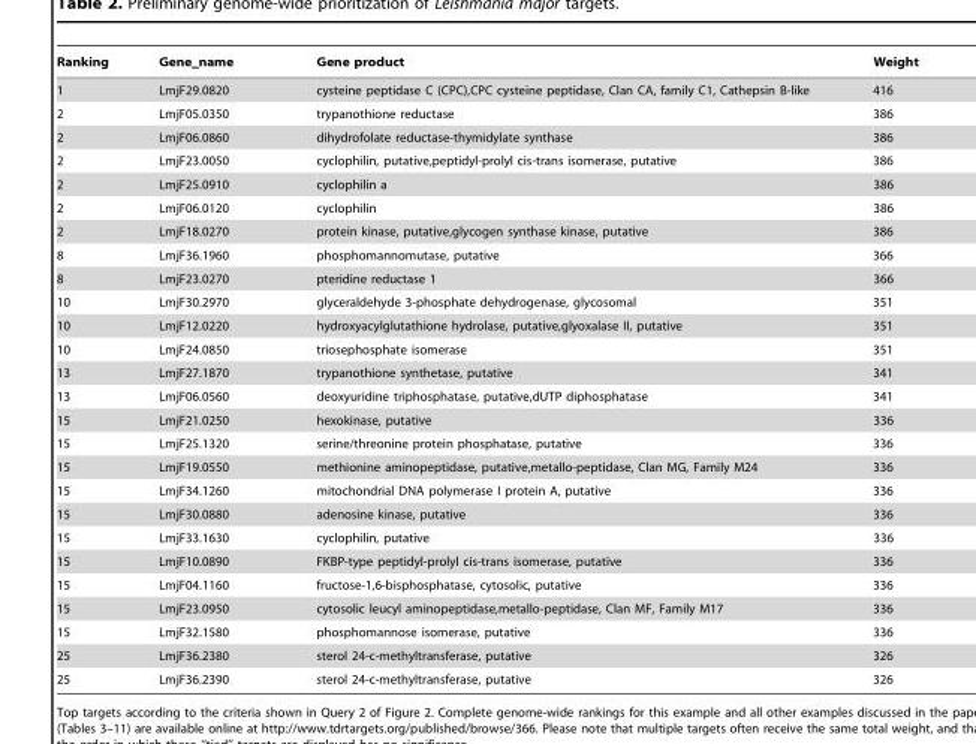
<table><thead><tr><td>Ranking</td><td>Gene__name</td><td>Gene product</td><td>Weight</td></tr></thead><tbody><tr><td>1</td><td>LmjF29.0820</td><td>cysteine peptidase C (CPC),CPC cysteine peptidase, Clan CA, family C1, Cathepsin B-like</td><td>416</td></tr><tr><td>2</td><td>LmjF05.0350</td><td>trypanothione reductase</td><td>386</td></tr><tr><td>2</td><td>LmjF06.0860</td><td>dihydrofolate reductase-thymidylate synthase</td><td>386</td></tr><tr><td>2</td><td>LmjF23.0050</td><td>cyclophilin, putative,peptidyl-prolyl cis-trans isomerase, putative</td><td>386</td></tr><tr><td>2</td><td>LmjF25.0910</td><td>cyclophilin a</td><td>386</td></tr><tr><td>2</td><td>LmjF06.0120</td><td>cyclophilin</td><td>386</td></tr><tr><td>2</td><td>LmjF18.0270</td><td>protein kinase, putative,glycogen synthase kinase, putative</td><td>386</td></tr><tr><td>8</td><td>LmjF36.1960</td><td>phosphomannomutase, putative</td><td>366</td></tr><tr><td>8</td><td>LmjF23.0270</td><td>pteridine reductase 1</td><td>366</td></tr><tr><td>10</td><td>LmjF30.2970</td><td>glyceraldehyde 3-phosphate dehydrogenase, glycosomal</td><td>351</td></tr><tr><td>10</td><td>LmjF12.0220</td><td>hydroxyacylglutathione hydrolase, putative,glyoxalase II, putative</td><td>351</td></tr><tr><td>10</td><td>LmjF24.0850</td><td>triosephosphate isomerase</td><td>351</td></tr><tr><td>13</td><td>LmjF27.1870</td><td>trypanothione synthetase, putative</td><td>341</td></tr><tr><td>13</td><td>LmjF06.0560</td><td>deoxyuridine triphosphatase, putative,dUTP diphosphatase</td><td>341</td></tr><tr><td>15</td><td>LmjF21.0250</td><td>hexokinase, putative</td><td>336</td></tr><tr><td>15</td><td>LmjF25.1320</td><td>serine/threonine protein phosphatase, putative</td><td>336</td></tr><tr><td>15</td><td>LmjF19.0550</td><td>methionine aminopeptidase, putative,metallo-peptidase, Clan MG, Family M24</td><td>336</td></tr><tr><td>15</td><td>LmjF34.1260</td><td>mitochondrial DNA polymerase I protein A, putative</td><td>336</td></tr><tr><td>15</td><td>LmjF30.0880</td><td>adenosine kinase, putative</td><td>336</td></tr><tr><td>15</td><td>LmjF33.1630</td><td>cyclophilin, putative</td><td>336</td></tr><tr><td>15</td><td>LmjF10.0890</td><td>FKBP-type peptidyl-prolyl cis-trans isomerase, putative</td><td>336</td></tr><tr><td>15</td><td>LmjF04.1160</td><td>fructose-1,6-bisphosphatase, cytosolic, putative</td><td>336</td></tr><tr><td>15</td><td>LmjF23.0950</td><td>cytosolic leucyl aminopeptidase,metallo-peptidase, Clan MF, Family M17</td><td>336</td></tr><tr><td>15</td><td>LmjF32.1580</td><td>phosphomannose isomerase, putative</td><td>336</td></tr><tr><td>25</td><td>LmjF36.2380</td><td>sterol 24-c-methyltransferase, putative</td><td>326</td></tr><tr><td>25</td><td>LmjF36.2390</td><td>sterol 24-c-methyltransferase, putative</td><td>326</td></tr></tbody></table>